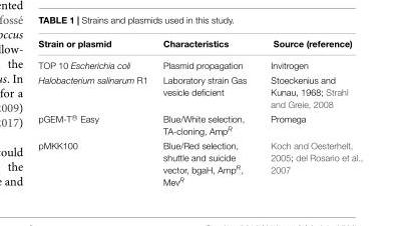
<table><thead><tr><td>Strain or plasmid</td><td>Characteristics</td><td>Source (reference)</td></tr></thead><tbody><tr><td>TOP 10 Escherichia coli</td><td>Plasmid propagation</td><td>Invitrogen</td></tr><tr><td>Halobacterium salinarum R1</td><td>Laboratory strain Gas vesicle deficient</td><td>Stoeckenius and Kunau, 1968; Strahl and Greie, 2008</td></tr><tr><td>pGEM-T R⃝ Easy</td><td>Blue/White selection, TA-cloning, Amp<sup>R</sup></td><td>Promega</td></tr><tr><td>pMKK100</td><td>Blue/Red selection, shuttle and suicide vector, bgaH, Amp<sup>R</sup>, Mev<sup>R</sup></td><td>Koch and Oesterhelt, 2005; del Rosario et al., 2007</td></tr></tbody></table>